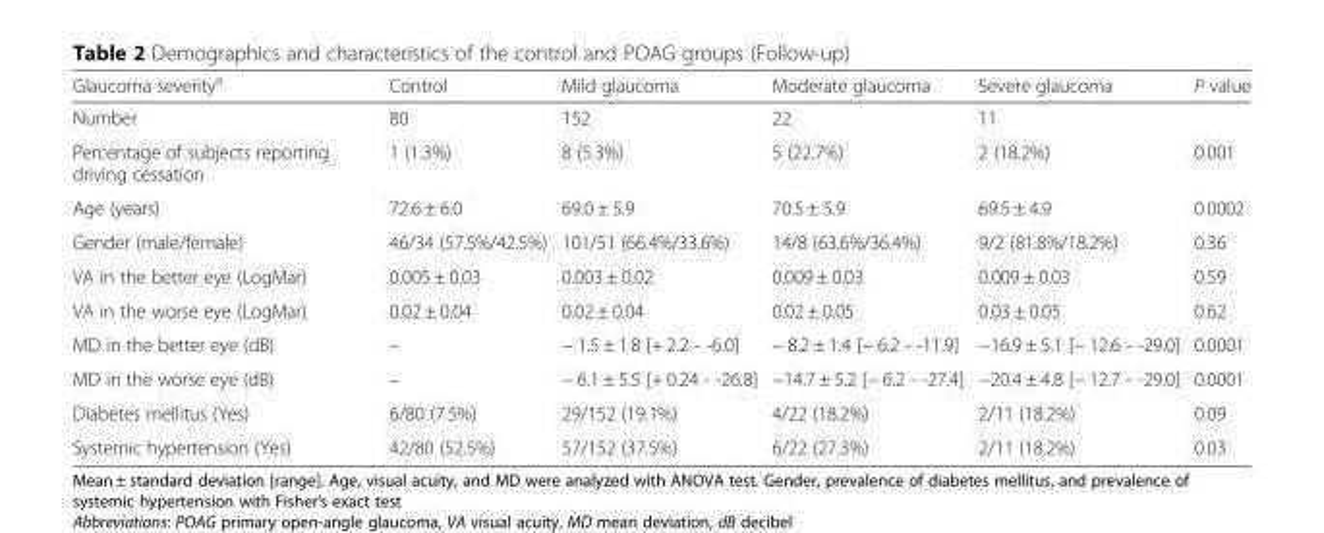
<table><thead><tr><td>Glaucoma severity<sup>a</sup></td><td>Control</td><td>Mild glaucoma</td><td>Moderate glaucoma</td><td>Severe glaucoma</td><td>P value</td></tr></thead><tbody><tr><td>Number</td><td>80</td><td>152</td><td>22</td><td>11</td><td></td></tr><tr><td>Percentage of subjects reporting driving cessation</td><td>1 (1.3%)</td><td>8 (5.3%)</td><td>5 (22.7%)</td><td>2 (18.2%)</td><td>0.001</td></tr><tr><td>Age (years)</td><td>72.6 ± 6.0</td><td>69.0 ± 5.9</td><td>70.5 ± 5.9</td><td>69.5 ± 4.9</td><td>0.0002</td></tr><tr><td>Gender (male/female)</td><td>46/34 (57.5%/42.5%)</td><td>101/51 (66.4%/33.6%)</td><td>14/8 (63.6%/36.4%)</td><td>9/2 (81.8%/18.2%)</td><td>0.36</td></tr><tr><td>VA in the better eye (LogMar)</td><td>0.005 ± 0.03</td><td>0.003 ± 0.02</td><td>0.009 ± 0.03</td><td>0.009 ± 0.03</td><td>0.59</td></tr><tr><td>VA in the worse eye (LogMar)</td><td>0.02 ± 0.04</td><td>0.02 ± 0.04</td><td>0.02 ± 0.05</td><td>0.03 ± 0.05</td><td>0.62</td></tr><tr><td>MD in the better eye (dB)</td><td>–</td><td>− 1.5 ± 1.8 [+ 2.2 - -6.0]</td><td>− 8.2 ± 1.4 [− 6.2 - -11.9]</td><td>−16.9 ± 5.1 [− 12.6 - -29.0]</td><td>0.0001</td></tr><tr><td>MD in the worse eye (dB)</td><td>–</td><td>− 6.1 ± 5.5 [+ 0.24 - -26.8]</td><td>−14.7 ± 5.2 [− 6.2 - -27.4]</td><td>−20.4 ± 4.8 [− 12.7 - -29.0]</td><td>0.0001</td></tr><tr><td>Diabetes mellitus (Yes)</td><td>6/80 (7.5%)</td><td>29/152 (19.1%)</td><td>4/22 (18.2%)</td><td>2/11 (18.2%)</td><td>0.09</td></tr><tr><td>Systemic hypertension (Yes)</td><td>42/80 (52.5%)</td><td>57/152 (37.5%)</td><td>6/22 (27.3%)</td><td>2/11 (18.2%)</td><td>0.03</td></tr></tbody></table>